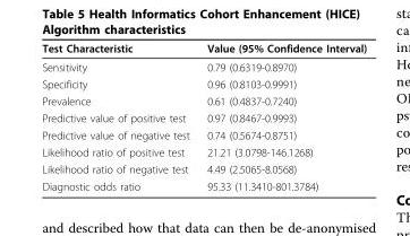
<table><thead><tr><td>Test Characteristic</td><td>Value (95% Confidence Interval)</td></tr></thead><tbody><tr><td>Sensitivity</td><td>0.79 (0.6319-0.8970)</td></tr><tr><td>Specificity</td><td>0.96 (0.8103-0.9991)</td></tr><tr><td>Prevalence</td><td>0.61 (0.4837-0.7240)</td></tr><tr><td>Predictive value of positive test</td><td>0.97 (0.8467-0.9993)</td></tr><tr><td>Predictive value of negative test</td><td>0.74 (0.5674-0.8751)</td></tr><tr><td>Likelihood ratio of positive test</td><td>21.21 (3.0798-146.1268)</td></tr><tr><td>Likelihood ratio of negative test</td><td>4.49 (2.5065-8.0568)</td></tr><tr><td>Diagnostic odds ratio</td><td>95.33 (11.3410-801.3784)</td></tr></tbody></table>